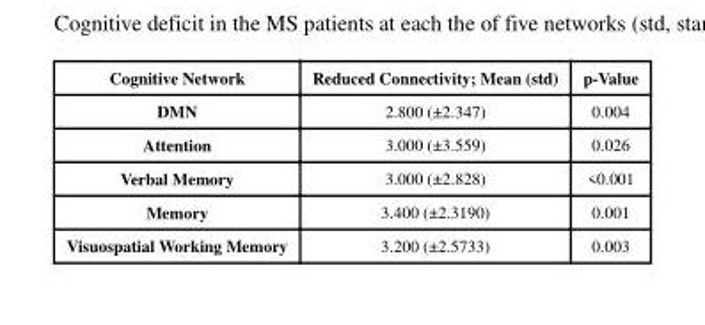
<table><thead><tr><td>Cognitive Network</td><td>Reduced Connectivity; Mean (std)</td><td>p-Value</td></tr></thead><tbody><tr><td>DMN</td><td>2.800 (±2.347)</td><td>0.004</td></tr><tr><td>Attention</td><td>3.000 (±3.559)</td><td>0.026</td></tr><tr><td>Verbal Memory</td><td>3.000 (±2.828)</td><td>&lt;0.001</td></tr><tr><td>Memory</td><td>3.400 (±2.3190)</td><td>0.001</td></tr><tr><td>Visuospatial Working Memory</td><td>3.200 (±2.5733)</td><td>0.003</td></tr></tbody></table>